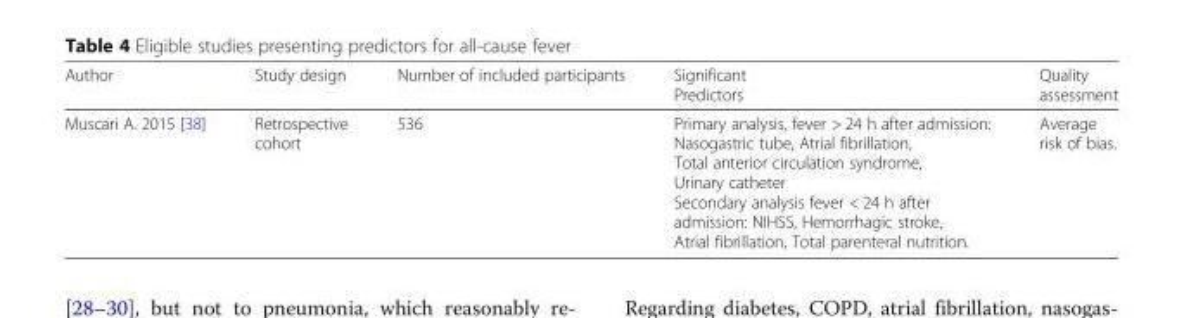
<table><thead><tr><td>Author</td><td>Study design</td><td>Number of included participants</td><td>Significant Predictors</td><td>Quality assessment</td></tr></thead><tbody><tr><td>Muscari A. 2015 [38]</td><td>Retrospective cohort</td><td>536</td><td>Primary analysis, fever &gt; 24 h after admission: Nasogastric tube, Atrial fibrillation, Total anterior circulation syndrome, Urinary catheter Secondary analysis fever &lt; 24 h after admission: NIHSS, Hemorrhagic stroke, Atrial fibrillation, Total parenteral nutrition.</td><td>Average risk of bias.</td></tr></tbody></table>